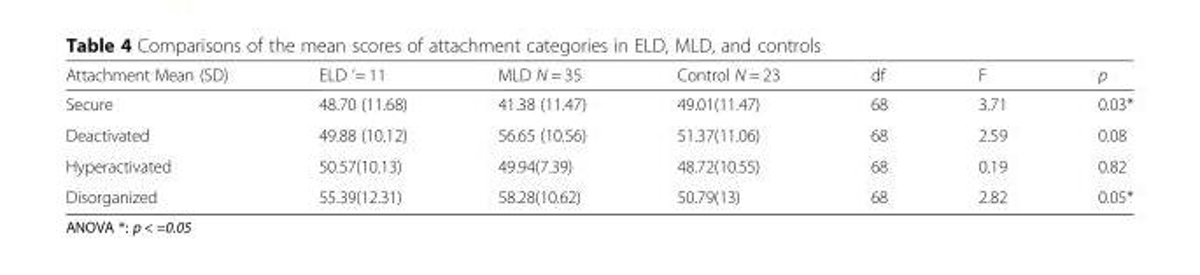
<table><thead><tr><td>Attachment Mean (SD)</td><td>ELD ‘= 11</td><td>MLD N = 35</td><td>Control N = 23</td><td>df</td><td>F</td><td>p</td></tr></thead><tbody><tr><td>Secure</td><td>48.70 (11.68)</td><td>41.38 (11.47)</td><td>49.01(11.47)</td><td>68</td><td>3.71</td><td>0.03*</td></tr><tr><td>Deactivated</td><td>49.88 (10.12)</td><td>56.65 (10.56)</td><td>51.37(11.06)</td><td>68</td><td>2.59</td><td>0.08</td></tr><tr><td>Hyperactivated</td><td>50.57(10.13)</td><td>49.94(7.39)</td><td>48.72(10.55)</td><td>68</td><td>0.19</td><td>0.82</td></tr><tr><td>Disorganized</td><td>55.39(12.31)</td><td>58.28(10.62)</td><td>50.79(13)</td><td>68</td><td>2.82</td><td>0.05*</td></tr></tbody></table>